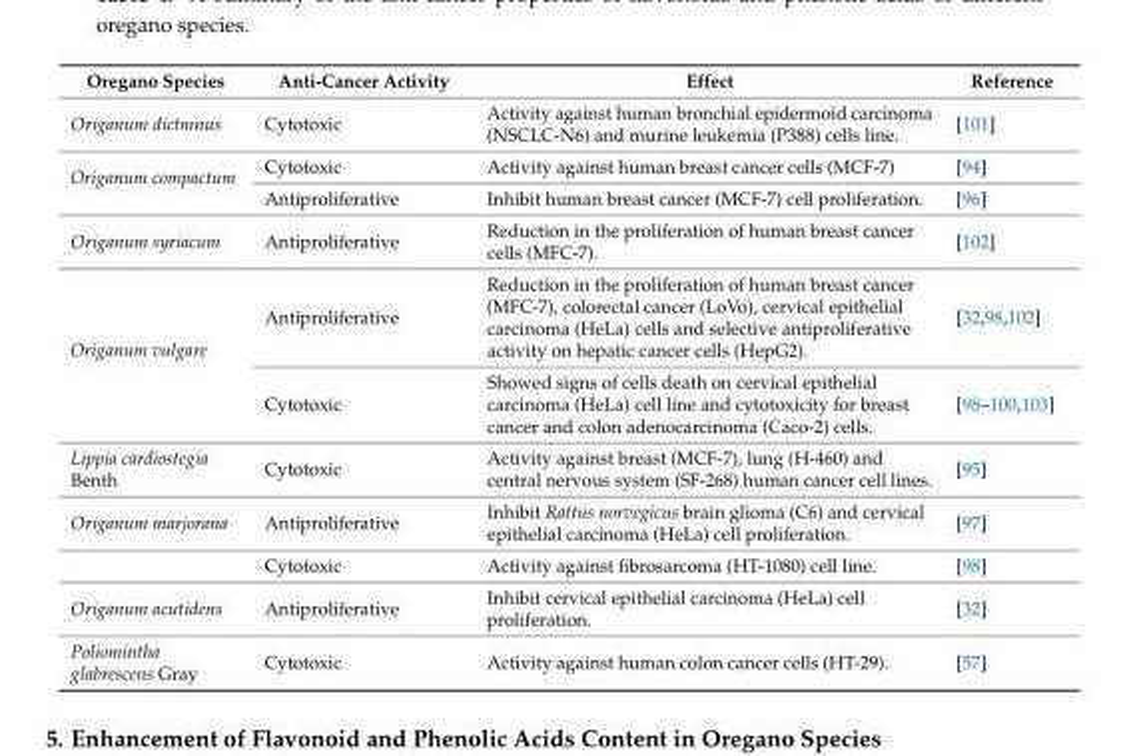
<table><thead><tr><td>Oregano Species</td><td>Anti-Cancer Activity</td><td>Effect</td><td>Reference</td></tr></thead><tbody><tr><td>Origanum dictmnus</td><td>Cytotoxic</td><td>Activity against human bronchial epidermoid carcinoma (NSCLC-N6) and murine leukemia (P388) cells line.</td><td>[101]</td></tr><tr><td rowspan="2">Origanum compactum</td><td>Cytotoxic</td><td>Activity against human breast cancer cells (MCF-7)</td><td>[94]</td></tr><tr><td>Antiproliferative</td><td>Inhibit human breast cancer (MCF-7) cell proliferation.</td><td>[96]</td></tr><tr><td>Origanum syriacum</td><td>Antiproliferative</td><td>Reduction in the proliferation of human breast cancer cells (MFC-7).</td><td>[102]</td></tr><tr><td rowspan="2">Origanum vulgare</td><td>Antiproliferative</td><td>Reduction in the proliferation of human breast cancer (MFC-7), colorectal cancer (LoVo), cervical epithelial carcinoma (HeLa) cells and selective antiproliferative activity on hepatic cancer cells (HepG2).</td><td>[32,98,102]</td></tr><tr><td>Cytotoxic</td><td>Showed signs of cells death on cervical epithelial carcinoma (HeLa) cell line and cytotoxicity for breast cancer and colon adenocarcinoma (Caco-2) cells.</td><td>[98–100,103]</td></tr><tr><td>Lippia cardiostegia Benth</td><td>Cytotoxic</td><td>Activity against breast (MCF-7), lung (H-460) and central nervous system (SF-268) human cancer cell lines.</td><td>[95]</td></tr><tr><td rowspan="2">Origanum marjorana</td><td>Antiproliferative</td><td>Inhibit Rattus norvegicus brain glioma (C6) and cervical epithelial carcinoma (HeLa) cell proliferation.</td><td>[97]</td></tr><tr><td>Cytotoxic</td><td>Activity against fibrosarcoma (HT-1080) cell line.</td><td>[98]</td></tr><tr><td>Origanum acutidens</td><td>Antiproliferative</td><td>Inhibit cervical epithelial carcinoma (HeLa) cell proliferation.</td><td>[32]</td></tr><tr><td>Poliomintha glabrescens Gray</td><td>Cytotoxic</td><td>Activity against human colon cancer cells (HT-29).</td><td>[57]</td></tr></tbody></table>